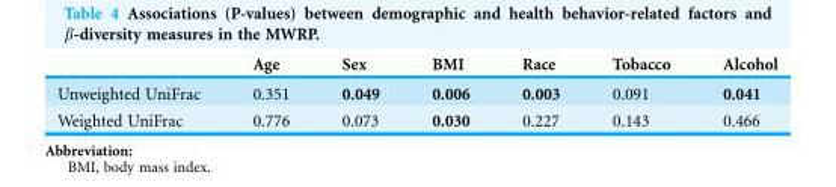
<table><thead><tr><td></td><td>Age</td><td>Sex</td><td>BMI</td><td>Race</td><td>Tobacco</td><td>Alcohol</td></tr></thead><tbody><tr><td>Unweighted UniFrac</td><td>0.351</td><td>0.049</td><td>0.006</td><td>0.003</td><td>0.091</td><td>0.041</td></tr><tr><td>Weighted UniFrac</td><td>0.776</td><td>0.073</td><td>0.030</td><td>0.227</td><td>0.143</td><td>0.466</td></tr></tbody></table>